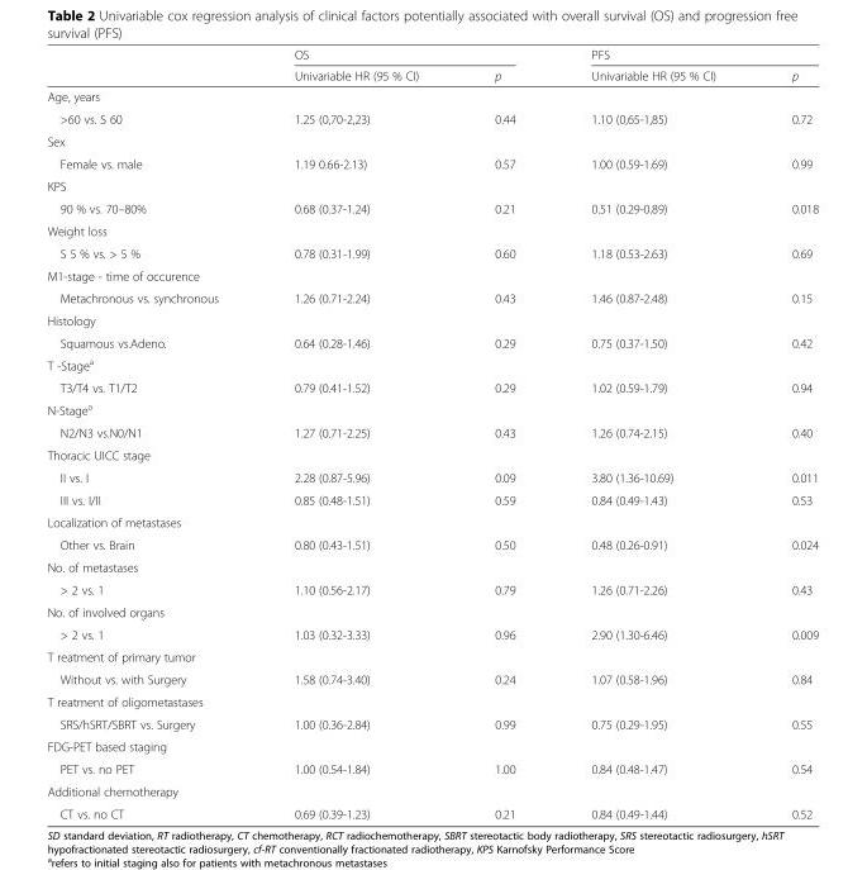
<table><thead><tr><td rowspan="2"></td><td colspan="2">OS</td><td colspan="2">PFS</td></tr><tr><td>Univariable HR (95 % CI)</td><td>p</td><td>Univariable HR (95 % CI)</td><td>p</td></tr></thead><tbody><tr><td colspan="5">Age, years</td></tr><tr><td>&gt;60 vs. S 60</td><td>1.25 (0,70-2,23)</td><td>0.44</td><td>1.10 (0,65-1,85)</td><td>0.72</td></tr><tr><td colspan="5">Sex</td></tr><tr><td>Female vs. male</td><td>1.19 0.66-2.13)</td><td>0.57</td><td>1.00 (0.59-1.69)</td><td>0.99</td></tr><tr><td colspan="5">KPS</td></tr><tr><td>90 % vs. 70–80%</td><td>0.68 (0.37-1.24)</td><td>0.21</td><td>0.51 (0.29-0.89)</td><td>0.018</td></tr><tr><td colspan="5">Weight loss</td></tr><tr><td>S 5 % vs. &gt; 5 %</td><td>0.78 (0.31-1.99)</td><td>0.60</td><td>1.18 (0.53-2.63)</td><td>0.69</td></tr><tr><td colspan="5">M1-stage - time of occurence</td></tr><tr><td>Metachronous vs. synchronous</td><td>1.26 (0.71-2.24)</td><td>0.43</td><td>1.46 (0.87-2.48)</td><td>0.15</td></tr><tr><td colspan="5">Histology</td></tr><tr><td>Squamous vs.Adeno.</td><td>0.64 (0.28-1.46)</td><td>0.29</td><td>0.75 (0.37-1.50)</td><td>0.42</td></tr><tr><td colspan="5">T -Stage<sup>a</sup></td></tr><tr><td>T3/T4 vs. T1/T2</td><td>0.79 (0.41-1.52)</td><td>0.29</td><td>1.02 (0.59-1.79)</td><td>0.94</td></tr><tr><td colspan="5">N-Stage<sup>a</sup></td></tr><tr><td>N2/N3 vs.N0/N1</td><td>1.27 (0.71-2.25)</td><td>0.43</td><td>1.26 (0.74-2.15)</td><td>0.40</td></tr><tr><td colspan="5">Thoracic UICC stage</td></tr><tr><td>II vs. I</td><td>2.28 (0.87-5.96)</td><td>0.09</td><td>3.80 (1.36-10.69)</td><td>0.011</td></tr><tr><td>III vs. I/II</td><td>0.85 (0.48-1.51)</td><td>0.59</td><td>0.84 (0.49-1.43)</td><td>0.53</td></tr><tr><td colspan="5">Localization of metastases</td></tr><tr><td>Other vs. Brain</td><td>0.80 (0.43-1.51)</td><td>0.50</td><td>0.48 (0.26-0.91)</td><td>0.024</td></tr><tr><td colspan="5">No. of metastases</td></tr><tr><td>&gt; 2 vs. 1</td><td>1.10 (0.56-2.17)</td><td>0.79</td><td>1.26 (0.71-2.26)</td><td>0.43</td></tr><tr><td colspan="5">No. of involved organs</td></tr><tr><td>&gt; 2 vs. 1</td><td>1.03 (0.32-3.33)</td><td>0.96</td><td>2.90 (1.30-6.46)</td><td>0.009</td></tr><tr><td colspan="5">T reatment of primary tumor</td></tr><tr><td>Without vs. with Surgery</td><td>1.58 (0.74-3.40)</td><td>0.24</td><td>1.07 (0.58-1.96)</td><td>0.84</td></tr><tr><td colspan="5">T reatment of oligometastases</td></tr><tr><td>SRS/hSRT/SBRT vs. Surgery</td><td>1.00 (0.36-2.84)</td><td>0.99</td><td>0.75 (0.29-1.95)</td><td>0.55</td></tr><tr><td colspan="5">FDG-PET based staging</td></tr><tr><td>PET vs. no PET</td><td>1.00 (0.54-1.84)</td><td>1.00</td><td>0.84 (0.48-1.47)</td><td>0.54</td></tr><tr><td colspan="5">Additional chemotherapy</td></tr><tr><td>CT vs. no CT</td><td>0.69 (0.39-1.23)</td><td>0.21</td><td>0.84 (0.49-1.44)</td><td>0.52</td></tr></tbody></table>